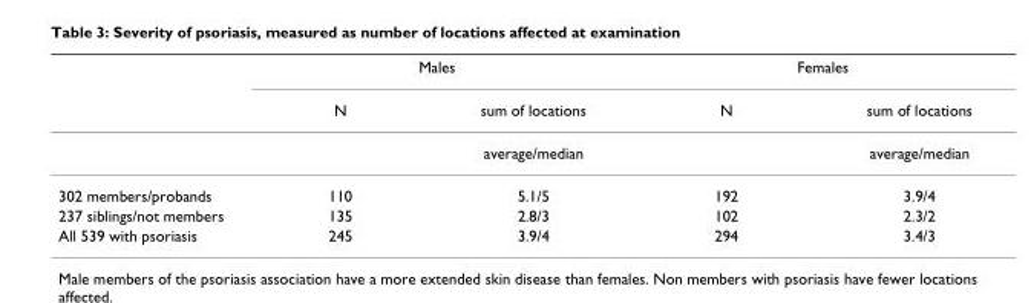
<table><thead><tr><td rowspan="2"></td><td colspan="2">Males</td><td colspan="2">Females</td></tr><tr><td>N</td><td>sum of locations</td><td>N</td><td>sum of locations</td></tr></thead><tbody><tr><td></td><td></td><td>average/median</td><td></td><td>average/median</td></tr><tr><td>302 members/probands</td><td>110</td><td>5.1/5</td><td>192</td><td>3.9/4</td></tr><tr><td>237 siblings/not members</td><td>135</td><td>2.8/3</td><td>102</td><td>2.3/2</td></tr><tr><td>All 539 with psoriasis</td><td>245</td><td>3.9/4</td><td>294</td><td>3.4/3</td></tr></tbody></table>